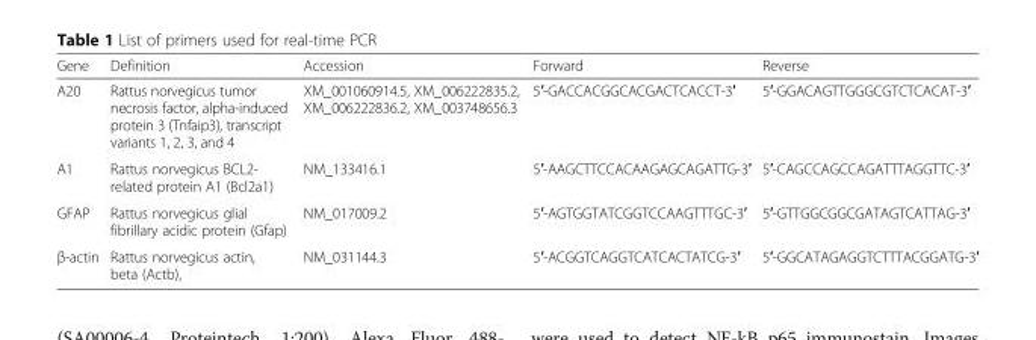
<table><thead><tr><td>Gene</td><td>Definition</td><td>Accession</td><td>Forward</td><td>Reverse</td></tr></thead><tbody><tr><td>A20</td><td>Rattus norvegicus tumor necrosis factor, alpha-induced protein 3 (Tnfaip3), transcript variants 1, 2, 3, and 4</td><td>XM_001060914.5, XM_006222835.2, XM_006222836.2, XM_003748656.3</td><td>5′-GACCACGGCACGACTCACCT-3′</td><td>5′-GGACAGTTGGGCGTCTCACAT-3′</td></tr><tr><td>A1</td><td>Rattus norvegicus BCL2- related protein A1 (Bcl2a1)</td><td>NM_133416.1</td><td>5′-AAGCTTCCACAAGAGCAGATTG-3′</td><td>5′-CAGCCAGCCAGATTTAGGTTC-3′</td></tr><tr><td>GFAP</td><td>Rattus norvegicus glial fibrillary acidic protein (Gfap)</td><td>NM_017009.2</td><td>5′-AGTGGTATCGGTCCAAGTTTGC-3′</td><td>5′-GTTGGCGGCGATAGTCATTAG-3′</td></tr><tr><td>β-actin</td><td>Rattus norvegicus actin, beta (Actb),</td><td>NM_031144.3</td><td>5′-ACGGTCAGGTCATCACTATCG-3′</td><td>5′-GGCATAGAGGTCTTTACGGATG-3′</td></tr></tbody></table>